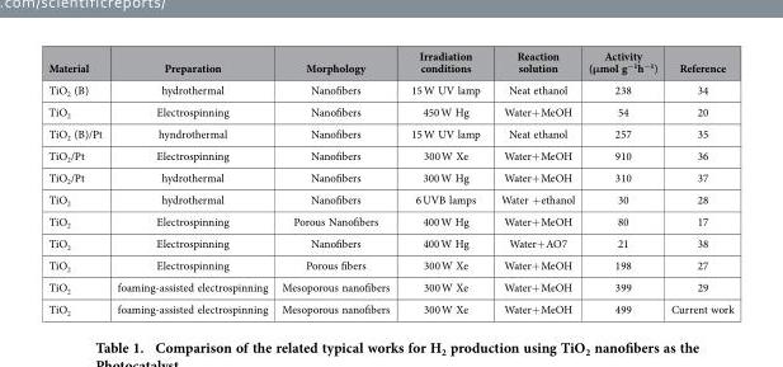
<table><thead><tr><td>Material</td><td>Preparation</td><td>Morphology</td><td>Irradiation conditions</td><td>Reaction solution</td><td>Activity (μmol g<sup>−1</sup>h<sup>−1</sup>)</td><td>Reference</td></tr></thead><tbody><tr><td>TiO<sub>2</sub> (B)</td><td>hydrothermal</td><td>Nanofibers</td><td>15 W UV lamp</td><td>Neat ethanol</td><td>238</td><td>34</td></tr><tr><td>TiO<sub>2</sub></td><td>Electrospinning</td><td>Nanofibers</td><td>450 W Hg</td><td>Water+ MeOH</td><td>54</td><td>20</td></tr><tr><td>TiO<sub>2</sub> (B)/Pt</td><td>hyndrothermal</td><td>Nanofibers</td><td>15 W UV lamp</td><td>Neat ethanol</td><td>257</td><td>35</td></tr><tr><td>TiO<sub>2</sub>/Pt</td><td>Electrospinning</td><td>Nanofibers</td><td>300 W Xe</td><td>Water+ MeOH</td><td>910</td><td>36</td></tr><tr><td>TiO<sub>2</sub>/Pt</td><td>hydrothermal</td><td>Nanofibers</td><td>300 W Hg</td><td>Water+ MeOH</td><td>310</td><td>37</td></tr><tr><td>TiO<sub>2</sub></td><td>hydrothermal</td><td>Nanofibers</td><td>6 UVB lamps</td><td>Water + ethanol</td><td>30</td><td>28</td></tr><tr><td>TiO<sub>2</sub></td><td>Electrospinning</td><td>Porous Nanofibers</td><td>400 W Hg</td><td>Water+ MeOH</td><td>80</td><td>17</td></tr><tr><td>TiO<sub>2</sub></td><td>Electrospinning</td><td>Nanofibers</td><td>400 W Hg</td><td>Water+ AO7</td><td>21</td><td>38</td></tr><tr><td>TiO<sub>2</sub></td><td>Electrospinning</td><td>Porous fibers</td><td>300 W Xe</td><td>Water+ MeOH</td><td>198</td><td>27</td></tr><tr><td>TiO<sub>2</sub></td><td>foaming-assisted electrospinning</td><td>Mesoporous nanofibers</td><td>300 W Xe</td><td>Water+ MeOH</td><td>399</td><td>29</td></tr><tr><td>TiO<sub>2</sub></td><td>foaming-assisted electrospinning</td><td>Mesoporous nanofibers</td><td>300 W Xe</td><td>Water+ MeOH</td><td>499</td><td>Current work</td></tr></tbody></table>